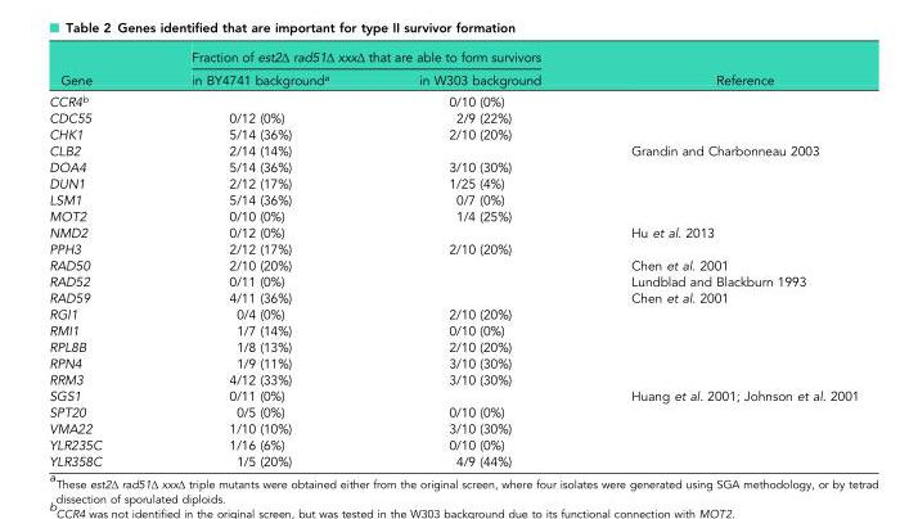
<table><thead><tr><td rowspan="2">Gene</td><td colspan="2">Fraction of est2Δ rad51Δ xxxΔ that are able to form survivors</td><td rowspan="2">Reference</td></tr><tr><td>in BY4741 background<sup>a</sup></td><td>in W303 background</td></tr></thead><tbody><tr><td>CCR4<sup>b</sup></td><td></td><td>0/10 (0%)</td><td></td></tr><tr><td>CDC55</td><td>0/12 (0%)</td><td>2/9 (22%)</td><td></td></tr><tr><td>CHK1</td><td>5/14 (36%)</td><td>2/10 (20%)</td><td></td></tr><tr><td>CLB2</td><td>2/14 (14%)</td><td></td><td>Grandin and Charbonneau 2003</td></tr><tr><td>DOA4</td><td>5/14 (36%)</td><td>3/10 (30%)</td><td></td></tr><tr><td>DUN1</td><td>2/12 (17%)</td><td>1/25 (4%)</td><td></td></tr><tr><td>LSM1</td><td>5/14 (36%)</td><td>0/7 (0%)</td><td></td></tr><tr><td>MOT2</td><td>0/10 (0%)</td><td>1/4 (25%)</td><td></td></tr><tr><td>NMD2</td><td>0/12 (0%)</td><td></td><td>Hu et al. 2013</td></tr><tr><td>PPH3</td><td>2/12 (17%)</td><td>2/10 (20%)</td><td></td></tr><tr><td>RAD50</td><td>2/10 (20%)</td><td></td><td>Chen et al. 2001</td></tr><tr><td>RAD52</td><td>0/11 (0%)</td><td></td><td>Lundblad and Blackburn 1993</td></tr><tr><td>RAD59</td><td>4/11 (36%)</td><td></td><td>Chen et al. 2001</td></tr><tr><td>RGI1</td><td>0/4 (0%)</td><td>2/10 (20%)</td><td></td></tr><tr><td>RMI1</td><td>1/7 (14%)</td><td>0/10 (0%)</td><td></td></tr><tr><td>RPL8B</td><td>1/8 (13%)</td><td>2/10 (20%)</td><td></td></tr><tr><td>RPN4</td><td>1/9 (11%)</td><td>3/10 (30%)</td><td></td></tr><tr><td>RRM3</td><td>4/12 (33%)</td><td>3/10 (30%)</td><td></td></tr><tr><td>SGS1</td><td>0/11 (0%)</td><td></td><td>Huang et al. 2001; Johnson et al. 2001</td></tr><tr><td>SPT20</td><td>0/5 (0%)</td><td>0/10 (0%)</td><td></td></tr><tr><td>VMA22</td><td>1/10 (10%)</td><td>3/10 (30%)</td><td></td></tr><tr><td>YLR235C</td><td>1/16 (6%)</td><td>0/10 (0%)</td><td></td></tr><tr><td>YLR358C</td><td>1/5 (20%)</td><td>4/9 (44%)</td><td></td></tr></tbody></table>